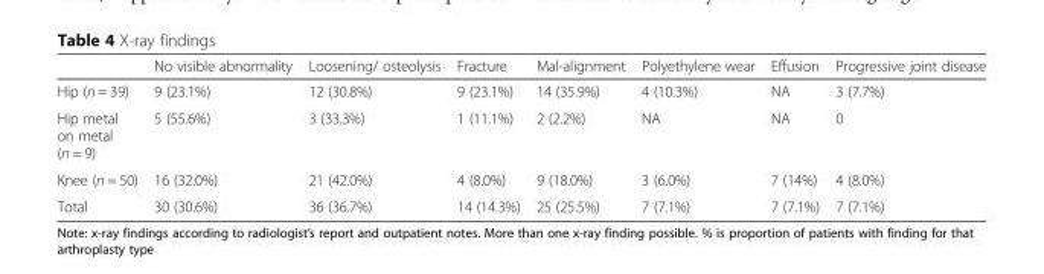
<table><thead><tr><td></td><td>No visible abnormality</td><td>Loosening/ osteolysis</td><td>Fracture</td><td>Mal-alignment</td><td>Polyethylene wear</td><td>Effusion</td><td>Progressive joint disease</td></tr></thead><tbody><tr><td>Hip (n = 39)</td><td>9 (23.1%)</td><td>12 (30.8%)</td><td>9 (23.1%)</td><td>14 (35.9%)</td><td>4 (10.3%)</td><td>NA</td><td>3 (7.7%)</td></tr><tr><td>Hip metal on metal (n = 9)</td><td>5 (55.6%)</td><td>3 (33.3%)</td><td>1 (11.1%)</td><td>2 (2.2%)</td><td>NA</td><td>NA</td><td>0</td></tr><tr><td>Knee (n = 50)</td><td>16 (32.0%)</td><td>21 (42.0%)</td><td>4 (8.0%)</td><td>9 (18.0%)</td><td>3 (6.0%)</td><td>7 (14%)</td><td>4 (8.0%)</td></tr><tr><td>Total</td><td>30 (30.6%)</td><td>36 (36.7%)</td><td>14 (14.3%)</td><td>25 (25.5%)</td><td>7 (7.1%)</td><td>7 (7.1%)</td><td>7 (7.1%)</td></tr></tbody></table>